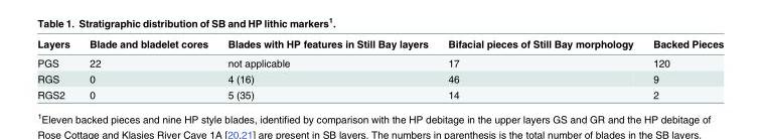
<table><thead><tr><td>Layers</td><td>Blade and bladelet cores</td><td>Blades with HP features in Still Bay layers</td><td>Bifacial pieces of Still Bay morphology</td><td>Backed Pieces</td></tr></thead><tbody><tr><td>PGS</td><td>22</td><td>not applicable</td><td>17</td><td>120</td></tr><tr><td>RGS</td><td>0</td><td>4 (16)</td><td>46</td><td>9</td></tr><tr><td>RGS2</td><td>0</td><td>5 (35)</td><td>14</td><td>2</td></tr></tbody></table>